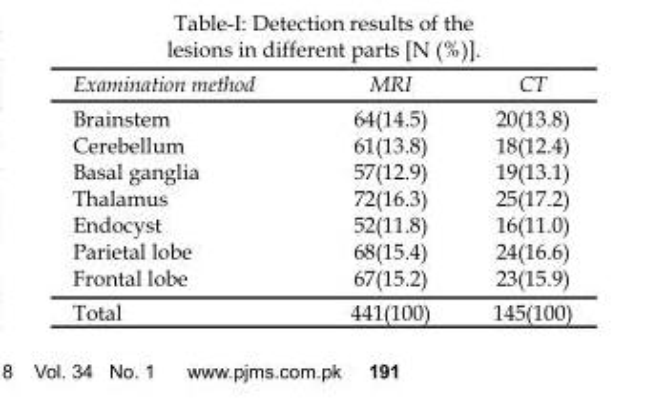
<table><thead><tr><td>Examination method</td><td>MRI</td><td>CT</td></tr></thead><tbody><tr><td>Brainstem</td><td>64(14.5)</td><td>20(13.8)</td></tr><tr><td>Cerebellum</td><td>61(13.8)</td><td>18(12.4)</td></tr><tr><td>Basal ganglia</td><td>57(12.9)</td><td>19(13.1)</td></tr><tr><td>Thalamus</td><td>72(16.3)</td><td>25(17.2)</td></tr><tr><td>Endocyst</td><td>52(11.8)</td><td>16(11.0)</td></tr><tr><td>Parietal lobe</td><td>68(15.4)</td><td>24(16.6)</td></tr><tr><td>Frontal lobe</td><td>67(15.2)</td><td>23(15.9)</td></tr><tr><td>Total</td><td>441(100)</td><td>145(100)</td></tr></tbody></table>